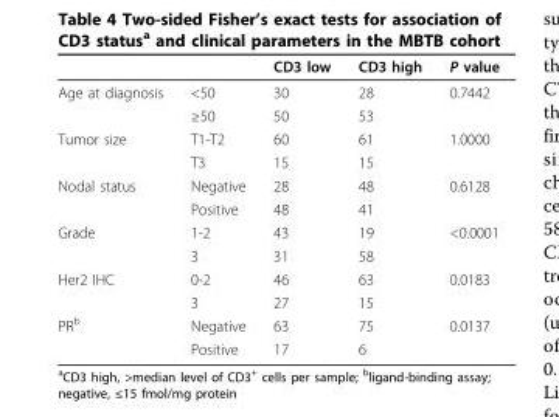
<table><thead><tr><td></td><td></td><td>CD3 low</td><td>CD3 high</td><td>P value</td></tr></thead><tbody><tr><td rowspan="2">Age at diagnosis</td><td>&lt;50</td><td>30</td><td>28</td><td>0.7442</td></tr><tr><td>≥50</td><td>50</td><td>53</td><td></td></tr><tr><td rowspan="2">Tumor size</td><td>T1-T2</td><td>60</td><td>61</td><td>1.0000</td></tr><tr><td>T3</td><td>15</td><td>15</td><td></td></tr><tr><td rowspan="2">Nodal status</td><td>Negative</td><td>28</td><td>48</td><td>0.6128</td></tr><tr><td>Positive</td><td>48</td><td>41</td><td></td></tr><tr><td rowspan="2">Grade</td><td>1-2</td><td>43</td><td>19</td><td>&lt;0.0001</td></tr><tr><td>3</td><td>31</td><td>58</td><td></td></tr><tr><td rowspan="2">Her2 IHC</td><td>0-2</td><td>46</td><td>63</td><td>0.0183</td></tr><tr><td>3</td><td>27</td><td>15</td><td></td></tr><tr><td rowspan="2">PR<sup>b</sup></td><td>Negative</td><td>63</td><td>75</td><td>0.0137</td></tr><tr><td>Positive</td><td>17</td><td>6</td><td></td></tr></tbody></table>